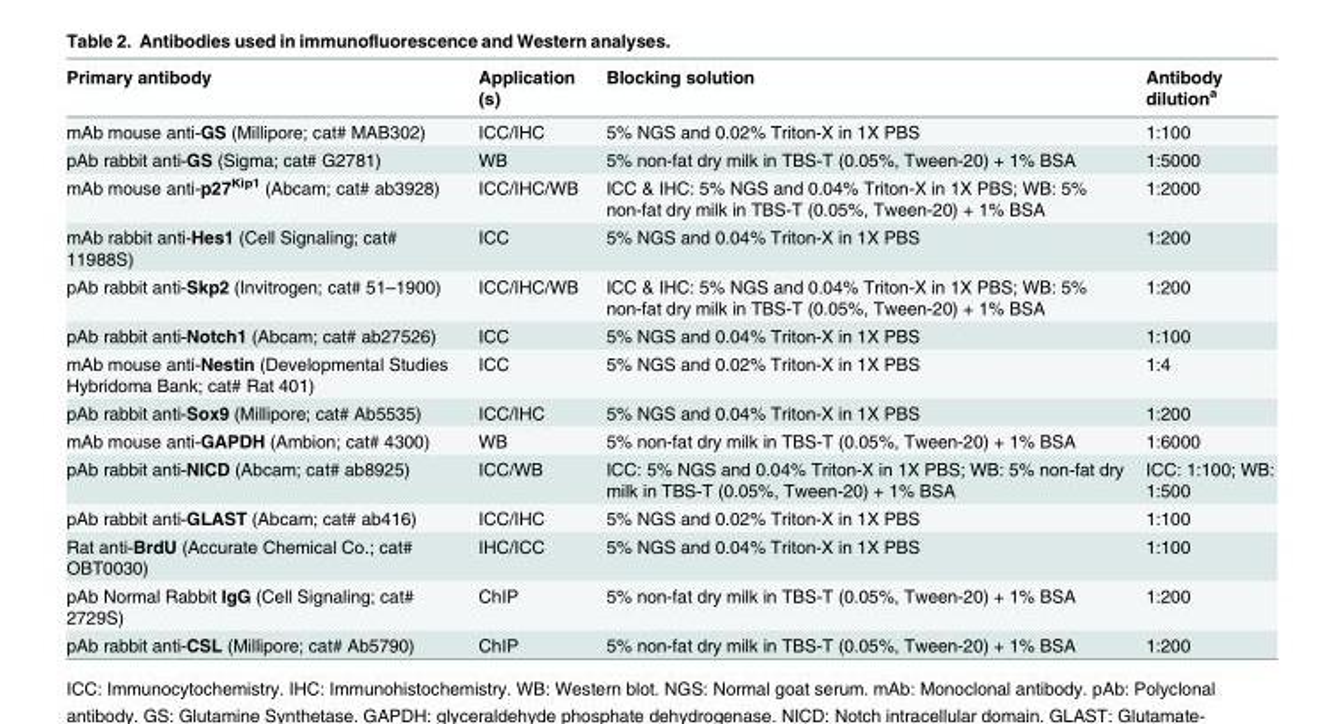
<table><thead><tr><td>Primary antibody</td><td>Application (s)</td><td>Blocking solution</td><td>Antibody dilution<sup>a</sup></td></tr></thead><tbody><tr><td>mAb mouse anti-GS (Millipore; cat# MAB302)</td><td>ICC/IHC</td><td>5% NGS and 0.02% Triton-X in 1X PBS</td><td>1:100</td></tr><tr><td>pAb rabbit anti-GS (Sigma; cat# G2781)</td><td>WB</td><td>5% non-fat dry milk in TBS-T (0.05%, Tween-20) + 1% BSA</td><td>1:5000</td></tr><tr><td>mAb mouse anti-p27<sup>Kip1</sup> (Abcam; cat# ab3928)</td><td>ICC/IHC/WB</td><td>ICC &amp; IHC: 5% NGS and 0.04% Triton-X in 1X PBS; WB: 5% non-fat dry milk in TBS-T (0.05%, Tween-20) + 1% BSA</td><td>1:2000</td></tr><tr><td>mAb rabbit anti-Hes1 (Cell Signaling; cat# 11988S)</td><td>ICC</td><td>5% NGS and 0.04% Triton-X in 1X PBS</td><td>1:200</td></tr><tr><td>pAb rabbit anti-Skp2 (Invitrogen; cat# 51–1900)</td><td>ICC/IHC/WB</td><td>ICC &amp; IHC: 5% NGS and 0.04% Triton-X in 1X PBS; WB: 5% non-fat dry milk in TBS-T (0.05%, Tween-20) + 1% BSA</td><td>1:200</td></tr><tr><td>pAb rabbit anti-Notch1 (Abcam; cat# ab27526)</td><td>ICC</td><td>5% NGS and 0.04% Triton-X in 1X PBS</td><td>1:100</td></tr><tr><td>mAb mouse anti-Nestin (Developmental Studies Hybridoma Bank; cat# Rat 401)</td><td>ICC</td><td>5% NGS and 0.02% Triton-X in 1X PBS</td><td>1:4</td></tr><tr><td>pAb rabbit anti-Sox9 (Millipore; cat# Ab5535)</td><td>ICC/IHC</td><td>5% NGS and 0.04% Triton-X in 1X PBS</td><td>1:200</td></tr><tr><td>mAb mouse anti-GAPDH (Ambion; cat# 4300)</td><td>WB</td><td>5% non-fat dry milk in TBS-T (0.05%, Tween-20) + 1% BSA</td><td>1:6000</td></tr><tr><td>pAb rabbit anti-NICD (Abcam; cat# ab8925)</td><td>ICC/WB</td><td>ICC: 5% NGS and 0.04% Triton-X in 1X PBS; WB: 5% non-fat dry milk in TBS-T (0.05%, Tween-20) + 1% BSA</td><td>ICC: 1:100; WB: 1:500</td></tr><tr><td>pAb rabbit anti-GLAST (Abcam; cat# ab416)</td><td>ICC/IHC</td><td>5% NGS and 0.02% Triton-X in 1X PBS</td><td>1:100</td></tr><tr><td>Rat anti-BrdU (Accurate Chemical Co.; cat# OBT0030)</td><td>IHC/ICC</td><td>5% NGS and 0.04% Triton-X in 1X PBS</td><td>1:100</td></tr><tr><td>pAb Normal Rabbit IgG (Cell Signaling; cat# 2729S)</td><td>ChIP</td><td>5% non-fat dry milk in TBS-T (0.05%, Tween-20) + 1% BSA</td><td>1:200</td></tr><tr><td>pAb rabbit anti-CSL (Millipore; cat# Ab5790)</td><td>ChIP</td><td>5% non-fat dry milk in TBS-T (0.05%, Tween-20) + 1% BSA</td><td>1:200</td></tr></tbody></table>